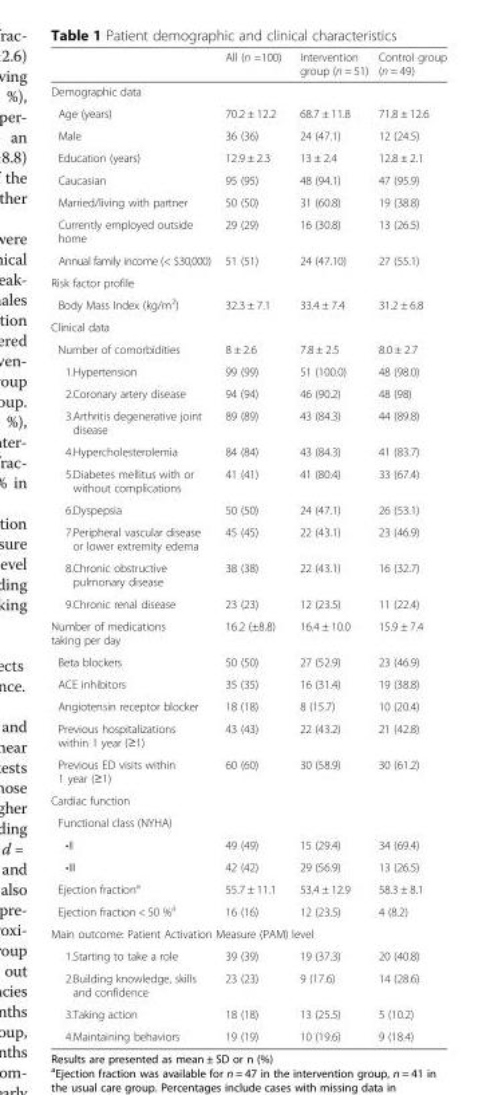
<table><thead><tr><td></td><td>All (n =100)</td><td>Intervention group (n = 51)</td><td>Control group (n = 49)</td></tr></thead><tbody><tr><td colspan="4">Demographic data</td></tr><tr><td>Age (years)</td><td>70.2 ± 12.2</td><td>68.7 ± 11.8</td><td>71.8 ± 12.6</td></tr><tr><td>Male</td><td>36 (36)</td><td>24 (47.1)</td><td>12 (24.5)</td></tr><tr><td>Education (years)</td><td>12.9 ± 2.3</td><td>13 ± 2.4</td><td>12.8 ± 2.1</td></tr><tr><td>Caucasian</td><td>95 (95)</td><td>48 (94.1)</td><td>47 (95.9)</td></tr><tr><td>Married/living with partner</td><td>50 (50)</td><td>31 (60.8)</td><td>19 (38.8)</td></tr><tr><td>Currently employed outside home</td><td>29 (29)</td><td>16 (30.8)</td><td>13 (26.5)</td></tr><tr><td>Annual family income (&lt; $30,000)</td><td>51 (51)</td><td>24 (47.10)</td><td>27 (55.1)</td></tr><tr><td colspan="4">Risk factor profile</td></tr><tr><td>Body Mass Index (kg/m<sup>2</sup>)</td><td>32.3 ± 7.1</td><td>33.4 ± 7.4</td><td>31.2 ± 6.8</td></tr><tr><td colspan="4">Clinical data</td></tr><tr><td>Number of comorbidities</td><td>8 ± 2.6</td><td>7.8 ± 2.5</td><td>8.0 ± 2.7</td></tr><tr><td>1.Hypertension</td><td>99 (99)</td><td>51 (100.0)</td><td>48 (98.0)</td></tr><tr><td>2.Coronary artery disease</td><td>94 (94)</td><td>46 (90.2)</td><td>48 (98)</td></tr><tr><td>3.Arthritis degenerative joint disease</td><td>89 (89)</td><td>43 (84.3)</td><td>44 (89.8)</td></tr><tr><td>4.Hypercholesterolemia</td><td>84 (84)</td><td>43 (84.3)</td><td>41 (83.7)</td></tr><tr><td>5.Diabetes mellitus with or without complications</td><td>41 (41)</td><td>41 (80.4)</td><td>33 (67.4)</td></tr><tr><td>6.Dyspepsia</td><td>50 (50)</td><td>24 (47.1)</td><td>26 (53.1)</td></tr><tr><td>7.Peripheral vascular disease or lower extremity edema</td><td>45 (45)</td><td>22 (43.1)</td><td>23 (46.9)</td></tr><tr><td>8.Chronic obstructive pulmonary disease</td><td>38 (38)</td><td>22 (43.1)</td><td>16 (32.7)</td></tr><tr><td>9.Chronic renal disease</td><td>23 (23)</td><td>12 (23.5)</td><td>11 (22.4)</td></tr><tr><td>Number of medications taking per day</td><td>16.2 (±8.8)</td><td>16.4 ± 10.0</td><td>15.9 ± 7.4</td></tr><tr><td>Beta blockers</td><td>50 (50)</td><td>27 (52.9)</td><td>23 (46.9)</td></tr><tr><td>ACE inhibitors</td><td>35 (35)</td><td>16 (31.4)</td><td>19 (38.8)</td></tr><tr><td>Angiotensin receptor blocker</td><td>18 (18)</td><td>8 (15.7)</td><td>10 (20.4)</td></tr><tr><td>Previous hospitalizations within 1 year (≥1)</td><td>43 (43)</td><td>22 (43.2)</td><td>21 (42.8)</td></tr><tr><td>Previous ED visits within 1 year (≥1)</td><td>60 (60)</td><td>30 (58.9)</td><td>30 (61.2)</td></tr><tr><td colspan="4">Cardiac function</td></tr><tr><td colspan="4">Functional class (NYHA)</td></tr><tr><td>•II</td><td>49 (49)</td><td>15 (29.4)</td><td>34 (69.4)</td></tr><tr><td>•III</td><td>42 (42)</td><td>29 (56.9)</td><td>13 (26.5)</td></tr><tr><td>Ejection fraction<sup>a</sup></td><td>55.7 ± 11.1</td><td>53.4 ± 12.9</td><td>58.3 ± 8.1</td></tr><tr><td>Ejection fraction &lt; 50 %<sup>a</sup></td><td>16 (16)</td><td>12 (23.5)</td><td>4 (8.2)</td></tr><tr><td colspan="4">Main outcome: Patient Activation Measure (PAM) level</td></tr><tr><td>1.Starting to take a role</td><td>39 (39)</td><td>19 (37.3)</td><td>20 (40.8)</td></tr><tr><td>2.Building knowledge, skills and confidence</td><td>23 (23)</td><td>9 (17.6)</td><td>14 (28.6)</td></tr><tr><td>3.Taking action</td><td>18 (18)</td><td>13 (25.5)</td><td>5 (10.2)</td></tr><tr><td>4.Maintaining behaviors</td><td>19 (19)</td><td>10 (19.6)</td><td>9 (18.4)</td></tr></tbody></table>